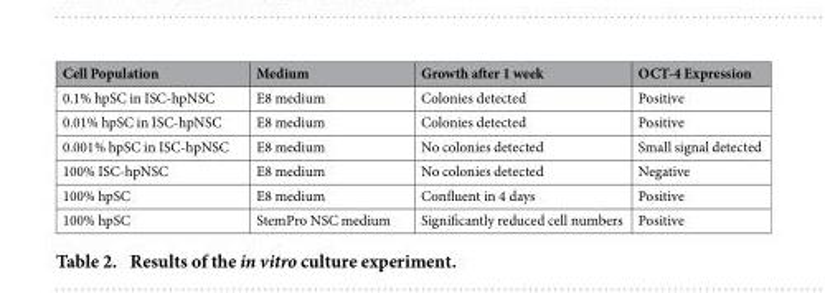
<table><thead><tr><td>Cell Population</td><td>Medium</td><td>Growth after 1 week</td><td>OCT-4 Expression</td></tr></thead><tbody><tr><td>0.1% hpSC in ISC-hpNSC</td><td>E8 medium</td><td>Colonies detected</td><td>Positive</td></tr><tr><td>0.01% hpSC in ISC-hpNSC</td><td>E8 medium</td><td>Colonies detected</td><td>Positive</td></tr><tr><td>0.001% hpSC in ISC-hpNSC</td><td>E8 medium</td><td>No colonies detected</td><td>Small signal detected</td></tr><tr><td>100% ISC-hpNSC</td><td>E8 medium</td><td>No colonies detected</td><td>Negative</td></tr><tr><td>100% hpSC</td><td>E8 medium</td><td>Confluent in 4 days</td><td>Positive</td></tr><tr><td>100% hpSC</td><td>StemPro NSC medium</td><td>Significantly reduced cell numbers</td><td>Positive</td></tr></tbody></table>